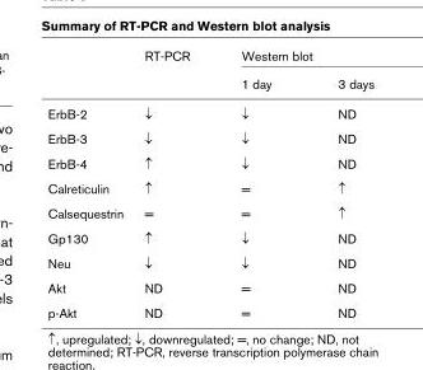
<table><thead><tr><td rowspan="2"></td><td rowspan="2">RT-PCR</td><td colspan="2">Western blot</td></tr><tr><td>1 day</td><td>3 days</td></tr></thead><tbody><tr><td>ErbB-2</td><td>↓</td><td>↓</td><td>ND</td></tr><tr><td>ErbB-3</td><td>↓</td><td>↓</td><td>ND</td></tr><tr><td>ErbB-4</td><td>↑</td><td>↓</td><td>ND</td></tr><tr><td>Calreticulin</td><td>↑</td><td>=</td><td>↑</td></tr><tr><td>Calsequestrin</td><td>=</td><td>=</td><td>↑</td></tr><tr><td>Gp130</td><td>↑</td><td>↓</td><td>ND</td></tr><tr><td>Neu</td><td>↓</td><td>↓</td><td>ND</td></tr><tr><td>Akt</td><td>ND</td><td>=</td><td>ND</td></tr><tr><td>p-Akt</td><td>ND</td><td>=</td><td>ND</td></tr></tbody></table>